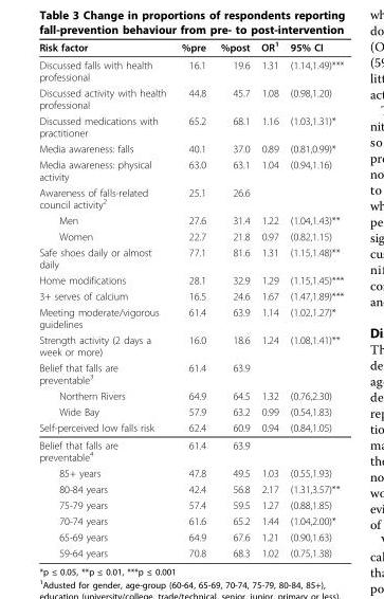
<table><thead><tr><td>Risk factor</td><td>%pre</td><td>%post</td><td>OR<sup>1</sup></td><td>95% CI</td></tr></thead><tbody><tr><td>Discussed falls with health professional</td><td>16.1</td><td>19.6</td><td>1.31</td><td>(1.14,1.49)***</td></tr><tr><td>Discussed activity with health professional</td><td>44.8</td><td>45.7</td><td>1.08</td><td>(0.98,1.20)</td></tr><tr><td>Discussed medications with practitioner</td><td>65.2</td><td>68.1</td><td>1.16</td><td>(1.03,1.31)*</td></tr><tr><td>Media awareness: falls</td><td>40.1</td><td>37.0</td><td>0.89</td><td>(0.81,0.99)*</td></tr><tr><td>Media awareness: physical activity</td><td>63.0</td><td>63.1</td><td>1.04</td><td>(0.94,1.16)</td></tr><tr><td>Awareness of falls-related council activity<sup>2</sup></td><td>25.1</td><td>26.6</td><td></td><td></td></tr><tr><td>Men</td><td>27.6</td><td>31.4</td><td>1.22</td><td>(1.04,1.43)**</td></tr><tr><td>Women</td><td>22.7</td><td>21.8</td><td>0.97</td><td>(0.82,1.15)</td></tr><tr><td>Safe shoes daily or almost daily</td><td>77.1</td><td>81.6</td><td>1.31</td><td>(1.15,1.48)**</td></tr><tr><td>Home modifications</td><td>28.1</td><td>32.9</td><td>1.29</td><td>(1.15,1.45)***</td></tr><tr><td>3+ serves of calcium</td><td>16.5</td><td>24.6</td><td>1.67</td><td>(1.47,1.89)***</td></tr><tr><td>Meeting moderate/vigorous guidelines</td><td>61.4</td><td>63.9</td><td>1.14</td><td>(1.02,1.27)*</td></tr><tr><td>Strength activity (2 days a week or more)</td><td>16.0</td><td>18.6</td><td>1.24</td><td>(1.08,1.41)**</td></tr><tr><td>Belief that falls are preventable<sup>3</sup></td><td>61.4</td><td>63.9</td><td></td><td></td></tr><tr><td>Northern Rivers</td><td>64.9</td><td>64.5</td><td>1.32</td><td>(0.76,2.30)</td></tr><tr><td>Wide Bay</td><td>57.9</td><td>63.2</td><td>0.99</td><td>(0.54,1.83)</td></tr><tr><td>Self-perceived low falls risk</td><td>62.4</td><td>60.9</td><td>0.94</td><td>(0.84,1.05)</td></tr><tr><td>Belief that falls are preventable<sup>4</sup></td><td>61.4</td><td>63.9</td><td></td><td></td></tr><tr><td>85+ years</td><td>47.8</td><td>49.5</td><td>1.03</td><td>(0.55,1.93)</td></tr><tr><td>80-84 years</td><td>42.4</td><td>56.8</td><td>2.17</td><td>(1.31,3.57)**</td></tr><tr><td>75-79 years</td><td>57.4</td><td>59.5</td><td>1.27</td><td>(0.88,1.85)</td></tr><tr><td>70-74 years</td><td>61.6</td><td>65.2</td><td>1.44</td><td>(1.04,2.00)*</td></tr><tr><td>65-69 years</td><td>64.9</td><td>67.6</td><td>1.21</td><td>(0.90,1.63)</td></tr><tr><td>59-64 years</td><td>70.8</td><td>68.3</td><td>1.02</td><td>(0.75,1.38)</td></tr></tbody></table>